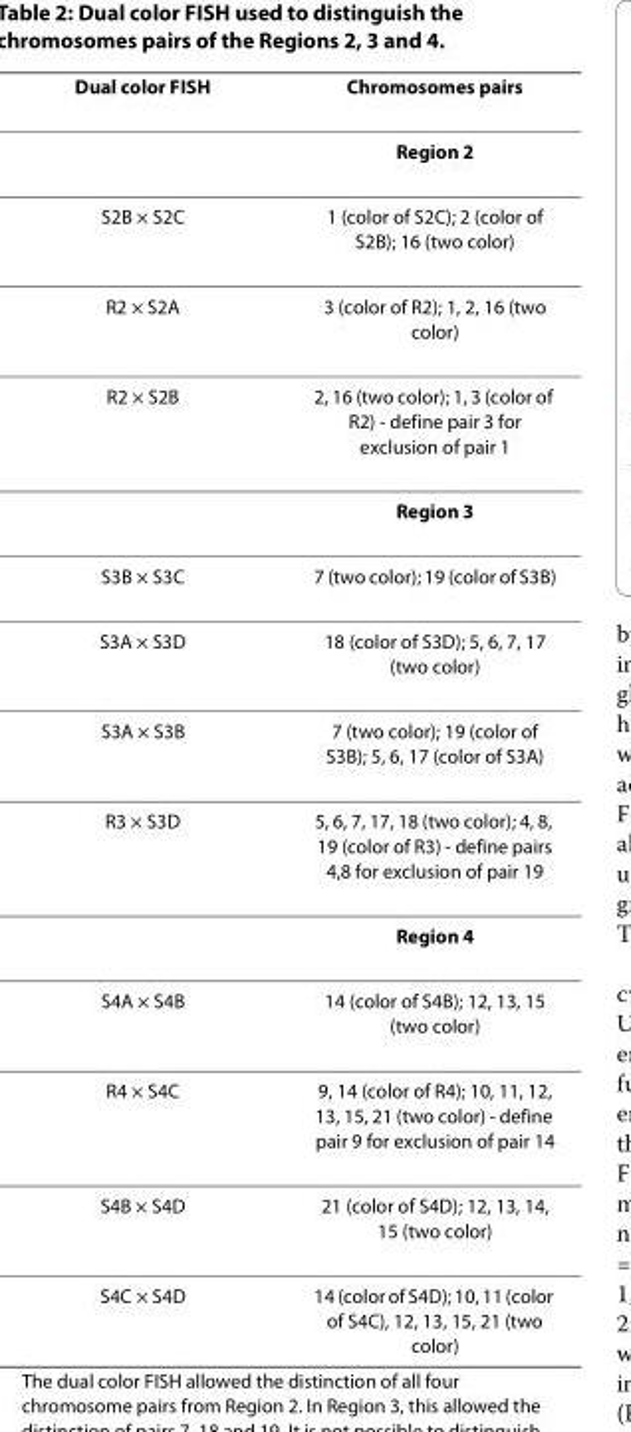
<table><thead><tr><td>Dual color FISH</td><td>Chromosomes pairs</td></tr></thead><tbody><tr><td></td><td>Region 2</td></tr><tr><td>S2B × S2C</td><td>1 (color of S2C); 2 (color of S2B); 16 (two color)</td></tr><tr><td>R2 × S2A</td><td>3 (color of R2); 1, 2, 16 (two color)</td></tr><tr><td rowspan="2">R2 × S2B</td><td>2, 16 (two color); 1, 3 (color of R2) - define pair 3 for exclusion of pair 1</td></tr><tr><td>Region 3</td></tr><tr><td>S3B × S3C</td><td>7 (two color); 19 (color of S3B)</td></tr><tr><td>S3A × S3D</td><td>18 (color of S3D); 5, 6, 7, 17 (two color)</td></tr><tr><td>S3A × S3B</td><td>7 (two color); 19 (color of S3B); 5, 6, 17 (color of S3A)</td></tr><tr><td rowspan="2">R3 × S3D</td><td>5, 6, 7, 17, 18 (two color); 4, 8, 19 (color of R3) - define pairs 4,8 for exclusion of pair 19</td></tr><tr><td>Region 4</td></tr><tr><td>S4A × S4B</td><td>14 (color of S4B); 12, 13, 15 (two color)</td></tr><tr><td>R4 × S4C</td><td>9, 14 (color of R4); 10, 11, 12, 13, 15, 21 (two color) - define pair 9 for exclusion of pair 14</td></tr><tr><td>S4B × S4D</td><td>21 (color of S4D); 12, 13, 14, 15 (two color)</td></tr><tr><td>S4C × S4D</td><td>14 (color of S4D); 10, 11 (color of S4C), 12, 13, 15, 21 (two color)</td></tr></tbody></table>